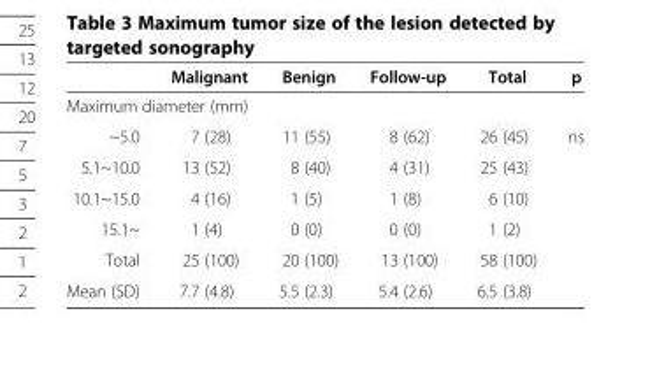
<table><thead><tr><td></td><td>Malignant</td><td>Benign</td><td>Follow-up</td><td>Total</td><td>p</td></tr></thead><tbody><tr><td colspan="6">Maximum diameter (mm)</td></tr><tr><td>~5.0</td><td>7 (28)</td><td>11 (55)</td><td>8 (62)</td><td>26 (45)</td><td>ns</td></tr><tr><td>5.1~10.0</td><td>13 (52)</td><td>8 (40)</td><td>4 (31)</td><td>25 (43)</td><td></td></tr><tr><td>10.1~15.0</td><td>4 (16)</td><td>1 (5)</td><td>1 (8)</td><td>6 (10)</td><td></td></tr><tr><td>15.1~</td><td>1 (4)</td><td>0 (0)</td><td>0 (0)</td><td>1 (2)</td><td></td></tr><tr><td>Total</td><td>25 (100)</td><td>20 (100)</td><td>13 (100)</td><td>58 (100)</td><td></td></tr><tr><td>Mean (SD)</td><td>7.7 (4.8)</td><td>5.5 (2.3)</td><td>5.4 (2.6)</td><td>6.5 (3.8)</td><td></td></tr></tbody></table>